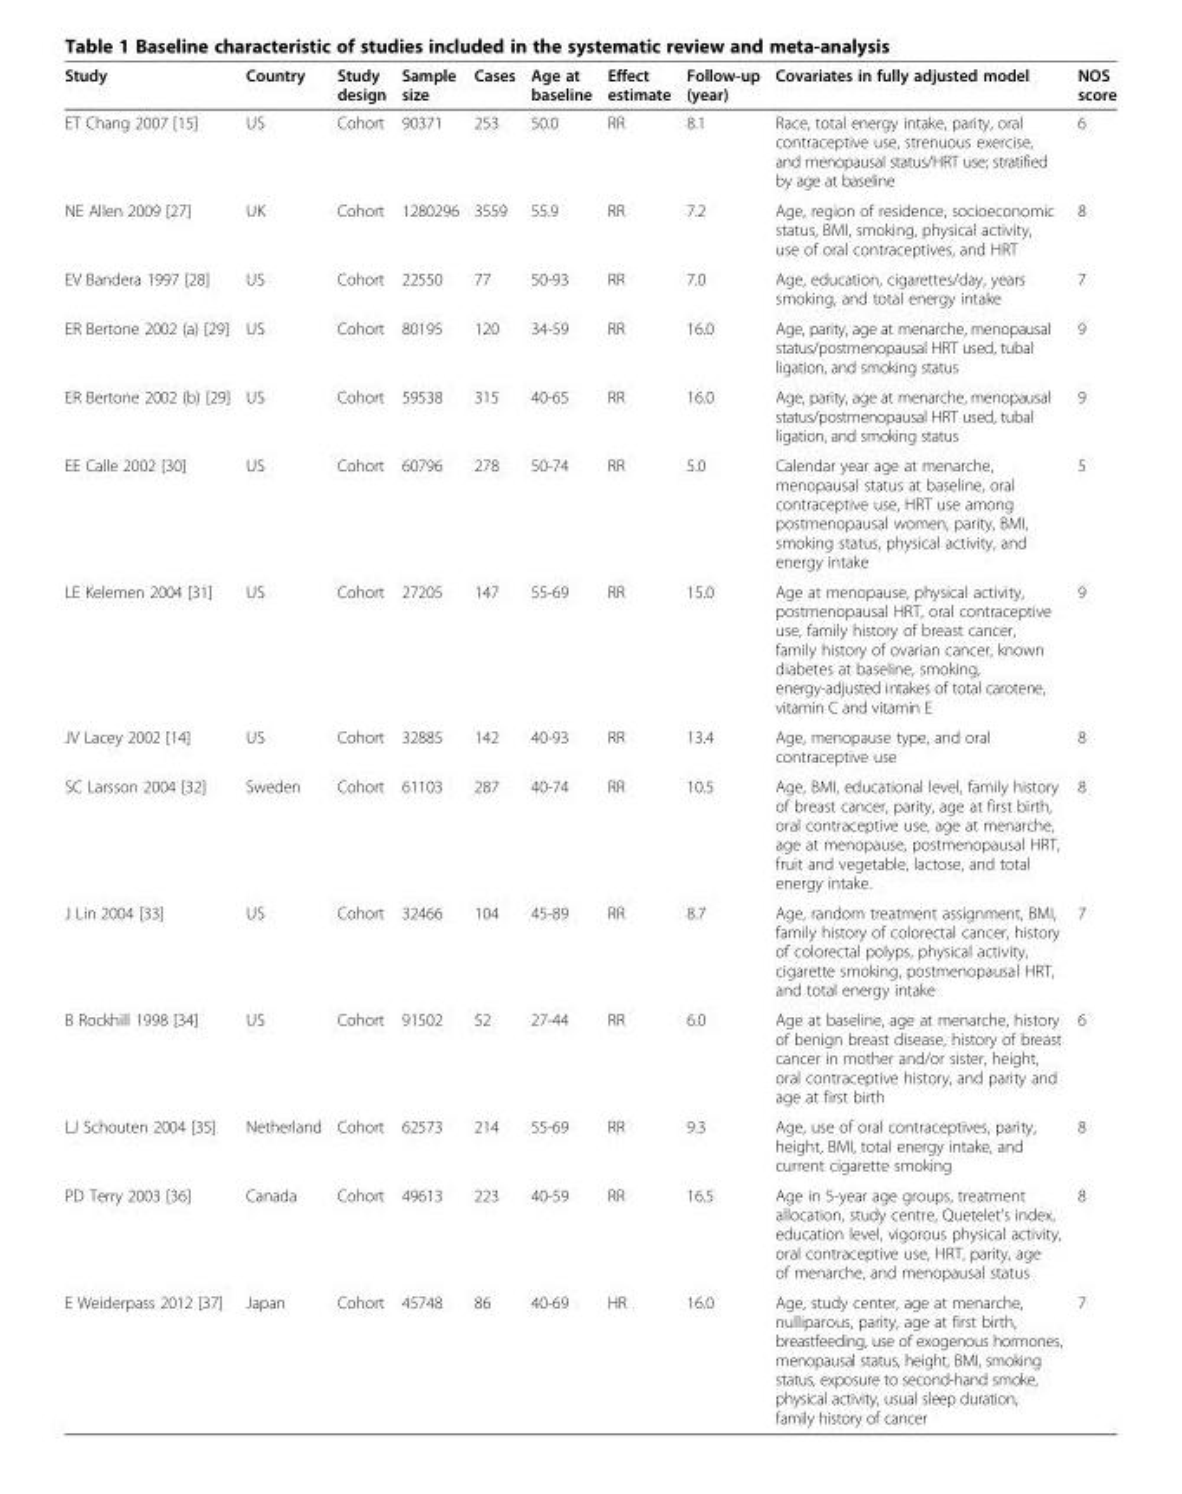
<table><thead><tr><td>Study</td><td>Country</td><td>Study design</td><td>Sample size</td><td>Cases</td><td>Age at baseline</td><td>Effect estimate</td><td>Follow-up (year)</td><td>Covariates in fully adjusted model</td><td>NOS score</td></tr></thead><tbody><tr><td>ET Chang 2007 [15]</td><td>US</td><td>Cohort</td><td>90371</td><td>253</td><td>50.0</td><td>RR</td><td>8.1</td><td>Race, total energy intake, parity, oral contraceptive use, strenuous exercise, and menopausal status/HRT use; stratified by age at baseline</td><td>6</td></tr><tr><td>NE Allen 2009 [27]</td><td>UK</td><td>Cohort</td><td>1280296</td><td>3559</td><td>55.9</td><td>RR</td><td>7.2</td><td>Age, region of residence, socioeconomic status, BMI, smoking, physical activity, use of oral contraceptives, and HRT</td><td>8</td></tr><tr><td>EV Bandera 1997 [28]</td><td>US</td><td>Cohort</td><td>22550</td><td>77</td><td>50-93</td><td>RR</td><td>7.0</td><td>Age, education, cigarettes/day, years smoking, and total energy intake</td><td>7</td></tr><tr><td>ER Bertone 2002 (a) [29]</td><td>US</td><td>Cohort</td><td>80195</td><td>120</td><td>34-59</td><td>RR</td><td>16.0</td><td>Age, parity, age at menarche, menopausal status/postmenopausal HRT used, tubal ligation, and smoking status</td><td>9</td></tr><tr><td>ER Bertone 2002 (b) [29]</td><td>US</td><td>Cohort</td><td>59538</td><td>315</td><td>40-65</td><td>RR</td><td>16.0</td><td>Age, parity, age at menarche, menopausal status/postmenopausal HRT used, tubal ligation, and smoking status</td><td>9</td></tr><tr><td>EE Calle 2002 [30]</td><td>US</td><td>Cohort</td><td>60796</td><td>278</td><td>50-74</td><td>RR</td><td>5.0</td><td>Calendar year age at menarche, menopausal status at baseline, oral contraceptive use, HRT use among postmenopausal women, parity, BMI, smoking status, physical activity, and energy intake</td><td>5</td></tr><tr><td>LE Kelemen 2004 [31]</td><td>US</td><td>Cohort</td><td>27205</td><td>147</td><td>55-69</td><td>RR</td><td>15.0</td><td>Age at menopause, physical activity, postmenopausal HRT, oral contraceptive use, family history of breast cancer, family history of ovarian cancer, known diabetes at baseline, smoking, energy-adjusted intakes of total carotene, vitamin C and vitamin E</td><td>9</td></tr><tr><td>JV Lacey 2002 [14]</td><td>US</td><td>Cohort</td><td>32885</td><td>142</td><td>40-93</td><td>RR</td><td>13.4</td><td>Age, menopause type, and oral contraceptive use</td><td>8</td></tr><tr><td>SC Larsson 2004 [32]</td><td>Sweden</td><td>Cohort</td><td>61103</td><td>287</td><td>40-74</td><td>RR</td><td>10.5</td><td>Age, BMI, educational level, family history of breast cancer, parity, age at first birth, oral contraceptive use, age at menarche, age at menopause, postmenopausal HRT, fruit and vegetable, lactose, and total energy intake.</td><td>8</td></tr><tr><td>J Lin 2004 [33]</td><td>US</td><td>Cohort</td><td>32466</td><td>104</td><td>45-89</td><td>RR</td><td>8.7</td><td>Age, random treatment assignment, BMI, family history of colorectal cancer, history of colorectal polyps, physical activity, cigarette smoking, postmenopausal HRT, and total energy intake</td><td>7</td></tr><tr><td>B Rockhill 1998 [34]</td><td>US</td><td>Cohort</td><td>91502</td><td>52</td><td>27-44</td><td>RR</td><td>6.0</td><td>Age at baseline, age at menarche, history of benign breast disease, history of breast cancer in mother and/or sister, height, oral contraceptive history, and parity and age at first birth</td><td>6</td></tr><tr><td>LJ Schouten 2004 [35]</td><td>Netherland</td><td>Cohort</td><td>62573</td><td>214</td><td>55-69</td><td>RR</td><td>9.3</td><td>Age, use of oral contraceptives, parity, height, BMI, total energy intake, and current cigarette smoking</td><td>8</td></tr><tr><td>PD Terry 2003 [36]</td><td>Canada</td><td>Cohort</td><td>49613</td><td>223</td><td>40-59</td><td>RR</td><td>16.5</td><td>Age in 5-year age groups, treatment allocation, study centre, Quetelet’s index, education level, vigorous physical activity, oral contraceptive use, HRT, parity, age of menarche, and menopausal status</td><td>8</td></tr><tr><td>E Weiderpass 2012 [37]</td><td>Japan</td><td>Cohort</td><td>45748</td><td>86</td><td>40-69</td><td>HR</td><td>16.0</td><td>Age, study center, age at menarche, nulliparous, parity, age at first birth, breastfeeding, use of exogenous hormones, menopausal status, height, BMI, smoking status, exposure to second-hand smoke, physical activity, usual sleep duration, family history of cancer</td><td>7</td></tr></tbody></table>